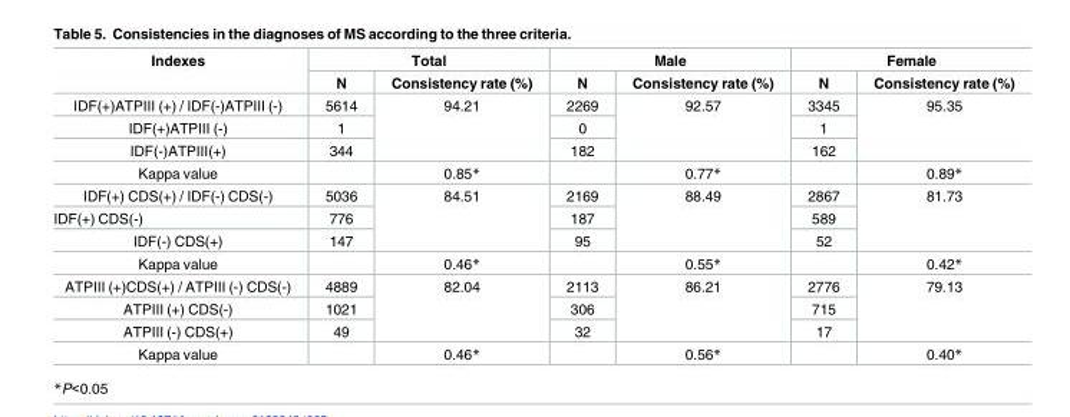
<table><thead><tr><td rowspan="2">Indexes</td><td colspan="2">Total</td><td colspan="2">Male</td><td colspan="2">Female</td></tr><tr><td>N</td><td>Consistency rate (%)</td><td>N</td><td>Consistency rate (%)</td><td>N</td><td>Consistency rate (%)</td></tr></thead><tbody><tr><td>IDF(+)ATPⅢ (+) / IDF(-)ATPⅢ (-)</td><td>5614</td><td rowspan="3">94.21</td><td>2269</td><td rowspan="3">92.57</td><td>3345</td><td rowspan="3">95.35</td></tr><tr><td>IDF(+)ATPⅢ (-)</td><td>1</td><td>0</td><td>1</td></tr><tr><td>IDF(-)ATPⅢ(+)</td><td>344</td><td>182</td><td>162</td></tr><tr><td>Kappa value</td><td></td><td>0.85*</td><td></td><td>0.77*</td><td></td><td>0.89*</td></tr><tr><td>IDF(+) CDS(+) / IDF(-) CDS(-)</td><td>5036</td><td rowspan="3">84.51</td><td>2169</td><td rowspan="3">88.49</td><td>2867</td><td rowspan="3">81.73</td></tr><tr><td>IDF(+) CDS(-)</td><td>776</td><td>187</td><td>589</td></tr><tr><td>IDF(-) CDS(+)</td><td>147</td><td>95</td><td>52</td></tr><tr><td>Kappa value</td><td></td><td>0.46*</td><td></td><td>0.55*</td><td></td><td>0.42*</td></tr><tr><td>ATPⅢ (+)CDS(+) / ATPⅢ (-) CDS(-)</td><td>4889</td><td rowspan="3">82.04</td><td>2113</td><td rowspan="3">86.21</td><td>2776</td><td rowspan="3">79.13</td></tr><tr><td>ATPⅢ (+) CDS(-)</td><td>1021</td><td>306</td><td>715</td></tr><tr><td>ATPⅢ (-) CDS(+)</td><td>49</td><td>32</td><td>17</td></tr><tr><td>Kappa value</td><td></td><td>0.46*</td><td></td><td>0.56*</td><td></td><td>0.40*</td></tr></tbody></table>